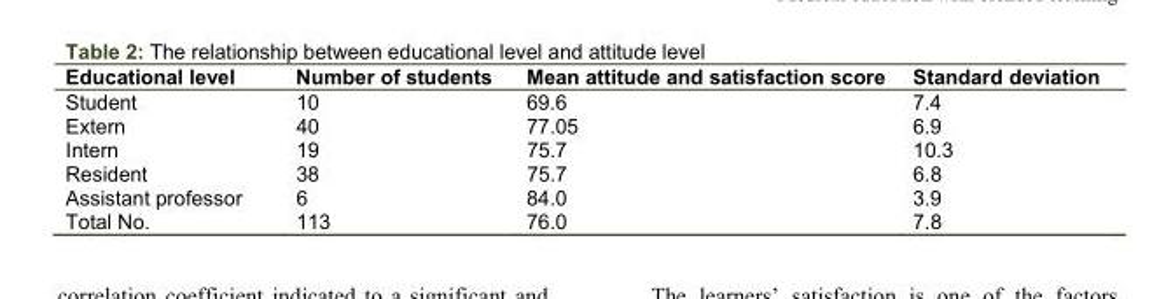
<table><thead><tr><td>Educational level</td><td>Number of students</td><td>Mean attitude and satisfaction score</td><td>Standard deviation</td></tr></thead><tbody><tr><td>Student</td><td>10</td><td>69.6</td><td>7.4</td></tr><tr><td>Extern</td><td>40</td><td>77.05</td><td>6.9</td></tr><tr><td>Intern</td><td>19</td><td>75.7</td><td>10.3</td></tr><tr><td>Resident</td><td>38</td><td>75.7</td><td>6.8</td></tr><tr><td>Assistant professor</td><td>6</td><td>84.0</td><td>3.9</td></tr><tr><td>Total No.</td><td>113</td><td>76.0</td><td>7.8</td></tr></tbody></table>